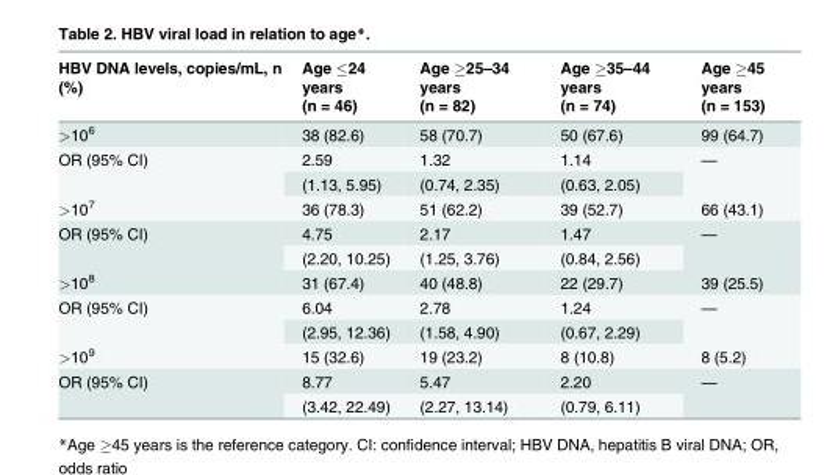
<table><thead><tr><td rowspan="2">HBV DNA levels, copies/mL, n (%)</td><td rowspan="2">Age ≤24 years (n = 46)</td><td rowspan="2">Age ≥25–34 years (n = 82)</td><td rowspan="2">Age ≥35–44 years (n = 74)</td><td rowspan="2">Age ≥45 years (n = 153)</td></tr><tr></tr></thead><tbody><tr><td>&gt;10<sup>6</sup></td><td>38 (82.6)</td><td>58 (70.7)</td><td>50 (67.6)</td><td>99 (64.7)</td></tr><tr><td rowspan="2">OR (95% CI)</td><td>2.59</td><td>1.32</td><td>1.14</td><td rowspan="2">—</td></tr><tr><td>(1.13, 5.95)</td><td>(0.74, 2.35)</td><td>(0.63, 2.05)</td></tr><tr><td>&gt;10<sup>7</sup></td><td>36 (78.3)</td><td>51 (62.2)</td><td>39 (52.7)</td><td>66 (43.1)</td></tr><tr><td rowspan="2">OR (95% CI)</td><td>4.75</td><td>2.17</td><td>1.47</td><td rowspan="2">—</td></tr><tr><td>(2.20, 10.25)</td><td>(1.25, 3.76)</td><td>(0.84, 2.56)</td></tr><tr><td>&gt;10<sup>8</sup></td><td>31 (67.4)</td><td>40 (48.8)</td><td>22 (29.7)</td><td>39 (25.5)</td></tr><tr><td rowspan="2">OR (95% CI)</td><td>6.04</td><td>2.78</td><td>1.24</td><td rowspan="2">—</td></tr><tr><td>(2.95, 12.36)</td><td>(1.58, 4.90)</td><td>(0.67, 2.29)</td></tr><tr><td>&gt;10<sup>9</sup></td><td>15 (32.6)</td><td>19 (23.2)</td><td>8 (10.8)</td><td>8 (5.2)</td></tr><tr><td rowspan="2">OR (95% CI)</td><td>8.77</td><td>5.47</td><td>2.20</td><td rowspan="2">—</td></tr><tr><td>(3.42, 22.49)</td><td>(2.27, 13.14)</td><td>(0.79, 6.11)</td></tr></tbody></table>